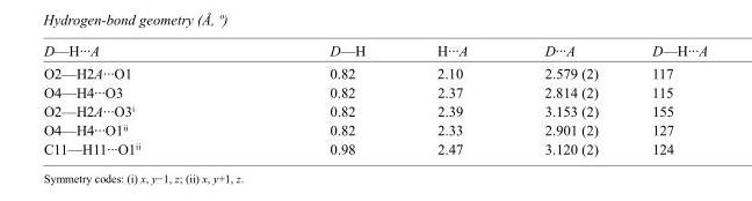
<table><tbody><tr><td>D—H···A</td><td>D—H</td><td>H···A</td><td>D···A</td><td>D—H···A</td></tr><tr><td>O2—H2A···O1</td><td>0.82</td><td>2.10</td><td>2.579 (2)</td><td>117</td></tr><tr><td>O4—H4···O3</td><td>0.82</td><td>2.37</td><td>2.814 (2)</td><td>115</td></tr><tr><td>O2—H2A···O3<sup>i</sup></td><td>0.82</td><td>2.39</td><td>3.153 (2)</td><td>155</td></tr><tr><td>O4—H4···O1<sup>ii</sup></td><td>0.82</td><td>2.33</td><td>2.901 (2)</td><td>127</td></tr><tr><td>C11—H11···O1<sup>ii</sup></td><td>0.98</td><td>2.47</td><td>3.120 (2)</td><td>124</td></tr></tbody></table>